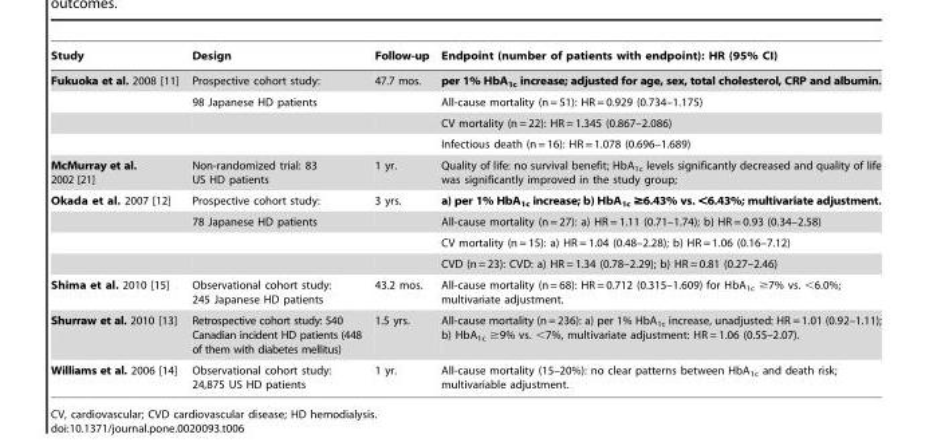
<table><thead><tr><td>Study</td><td>Design</td><td>Follow-up</td><td>Endpoint (number of patients with endpoint): HR (95% CI)</td></tr></thead><tbody><tr><td rowspan="4">Fukuoka et al. 2008 [11]</td><td>Prospective cohort study:</td><td>47.7 mos.</td><td>per 1% HbA<sub>1c</sub> increase; adjusted for age, sex, total cholesterol, CRP and albumin.</td></tr><tr><td>98 Japanese HD patients</td><td></td><td>All-cause mortality (n = 51): HR = 0.929 (0.734–1.175)</td></tr><tr><td></td><td></td><td>CV mortality (n = 22): HR = 1.345 (0.867–2.086)</td></tr><tr><td></td><td></td><td>Infectious death (n = 16): HR = 1.078 (0.696–1.689)</td></tr><tr><td>McMurray et al. 2002 [21]</td><td>Non-randomized trial: 83 US HD patients</td><td>1 yr.</td><td>Quality of life: no survival benefit; HbA<sub>1c</sub> levels significantly decreased and quality of life was significantly improved in the study group;</td></tr><tr><td rowspan="4">Okada et al. 2007 [12]</td><td>Prospective cohort study:</td><td>3 yrs.</td><td>a) per 1% HbA<sub>1c</sub> increase; b) HbA<sub>1c</sub> ≥6.43% vs. &lt;6.43%; multivariate adjustment.</td></tr><tr><td>78 Japanese HD patients</td><td></td><td>All-cause mortality (n = 27): a) HR = 1.11 (0.71–1.74); b) HR = 0.93 (0.34–2.58)</td></tr><tr><td></td><td></td><td>CV mortality (n = 15): a) HR = 1.04 (0.48–2.28); b) HR = 1.06 (0.16–7.12)</td></tr><tr><td></td><td></td><td>CVD (n = 23): CVD: a) HR = 1.34 (0.78–2.29); b) HR = 0.81 (0.27–2.46)</td></tr><tr><td>Shima et al. 2010 [15]</td><td>Observational cohort study: 245 Japanese HD patients</td><td>43.2 mos.</td><td>All-cause mortality (n = 68): HR = 0.712 (0.315–1.609) for HbA<sub>1c</sub> ≥7% vs. &lt;6.0%; multivariate adjustment.</td></tr><tr><td>Shurraw et al. 2010 [13]</td><td>Retrospective cohort study: 540 Canadian incident HD patients (448 of them with diabetes mellitus)</td><td>1.5 yrs.</td><td>All-cause mortality (n = 236): a) per 1% HbA<sub>1c</sub> increase, unadjusted: HR = 1.01 (0.92–1.11); b) HbA<sub>1c</sub> ≥9% vs. &lt;7%, multivariate adjustment: HR = 1.06 (0.55–2.07).</td></tr><tr><td>Williams et al. 2006 [14]</td><td>Observational cohort study: 24,875 US HD patients</td><td>1 yr.</td><td>All-cause mortality (15–20%): no clear patterns between HbA<sub>1c</sub> and death risk; multivariable adjustment.</td></tr></tbody></table>